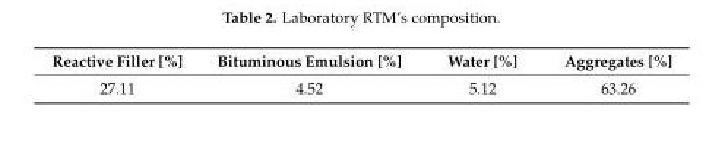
<table><thead><tr><td>Reactive Filler [%]</td><td>Bituminous Emulsion [%]</td><td>Water [%]</td><td>Aggregates [%]</td></tr></thead><tbody><tr><td>27.11</td><td>4.52</td><td>5.12</td><td>63.26</td></tr></tbody></table>